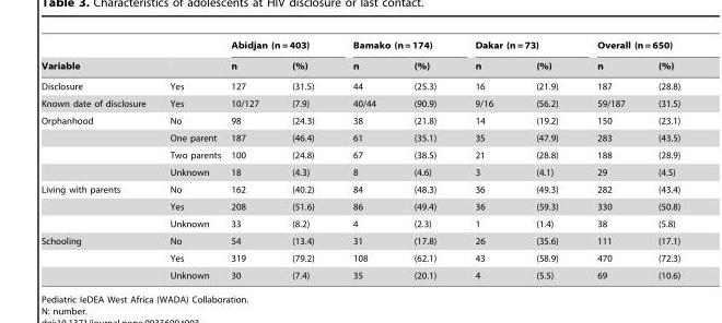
<table><thead><tr><td rowspan="2">Variable</td><td rowspan="2"></td><td colspan="2">Abidjan (n = 403)</td><td colspan="2">Bamako (n = 174)</td><td colspan="2">Dakar (n = 73)</td><td colspan="2">Overall (n = 650)</td></tr><tr><td>n</td><td>(%)</td><td>n</td><td>(%)</td><td>n</td><td>(%)</td><td>n</td><td>(%)</td></tr></thead><tbody><tr><td>Disclosure</td><td>Yes</td><td>127</td><td>(31.5)</td><td>44</td><td>(25.3)</td><td>16</td><td>(21.9)</td><td>187</td><td>(28.8)</td></tr><tr><td>Known date of disclosure</td><td>Yes</td><td>10/127</td><td>(7.9)</td><td>40/44</td><td>(90.9)</td><td>9/16</td><td>(56.2)</td><td>59/187</td><td>(31.5)</td></tr><tr><td rowspan="4">Orphanhood</td><td>No</td><td>98</td><td>(24.3)</td><td>38</td><td>(21.8)</td><td>14</td><td>(19.2)</td><td>150</td><td>(23.1)</td></tr><tr><td>One parent</td><td>187</td><td>(46.4)</td><td>61</td><td>(35.1)</td><td>35</td><td>(47.9)</td><td>283</td><td>(43.5)</td></tr><tr><td>Two parents</td><td>100</td><td>(24.8)</td><td>67</td><td>(38.5)</td><td>21</td><td>(28.8)</td><td>188</td><td>(28.9)</td></tr><tr><td>Unknown</td><td>18</td><td>(4.3)</td><td>8</td><td>(4.6)</td><td>3</td><td>(4.1)</td><td>29</td><td>(4.5)</td></tr><tr><td rowspan="3">Living with parents</td><td>No</td><td>162</td><td>(40.2)</td><td>84</td><td>(48.3)</td><td>36</td><td>(49.3)</td><td>282</td><td>(43.4)</td></tr><tr><td>Yes</td><td>208</td><td>(51.6)</td><td>86</td><td>(49.4)</td><td>36</td><td>(59.3)</td><td>330</td><td>(50.8)</td></tr><tr><td>Unknown</td><td>33</td><td>(8.2)</td><td>4</td><td>(2.3)</td><td>1</td><td>(1.4)</td><td>38</td><td>(5.8)</td></tr><tr><td rowspan="3">Schooling</td><td>No</td><td>54</td><td>(13.4)</td><td>31</td><td>(17.8)</td><td>26</td><td>(35.6)</td><td>111</td><td>(17.1)</td></tr><tr><td>Yes</td><td>319</td><td>(79.2)</td><td>108</td><td>(62.1)</td><td>43</td><td>(58.9)</td><td>470</td><td>(72.3)</td></tr><tr><td>Unknown</td><td>30</td><td>(7.4)</td><td>35</td><td>(20.1)</td><td>4</td><td>(5.5)</td><td>69</td><td>(10.6)</td></tr></tbody></table>